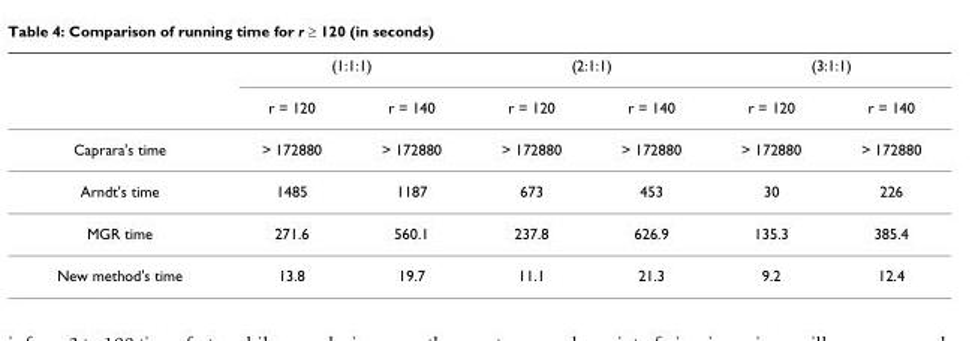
<table><thead><tr><td rowspan="2"></td><td colspan="2">(1:1:1)</td><td colspan="2">(2:1:1)</td><td colspan="2">(3:1:1)</td></tr><tr><td>r = 120</td><td>r = 140</td><td>r = 120</td><td>r = 140</td><td>r = 120</td><td>r = 140</td></tr></thead><tbody><tr><td>Caprara&#x27;s time</td><td>&gt; 172880</td><td>&gt; 172880</td><td>&gt; 172880</td><td>&gt; 172880</td><td>&gt; 172880</td><td>&gt; 172880</td></tr><tr><td>Arndt&#x27;s time</td><td>1485</td><td>1187</td><td>673</td><td>453</td><td>30</td><td>226</td></tr><tr><td>MGR time</td><td>271.6</td><td>560.1</td><td>237.8</td><td>626.9</td><td>135.3</td><td>385.4</td></tr><tr><td>New method&#x27;s time</td><td>13.8</td><td>19.7</td><td>11.1</td><td>21.3</td><td>9.2</td><td>12.4</td></tr></tbody></table>